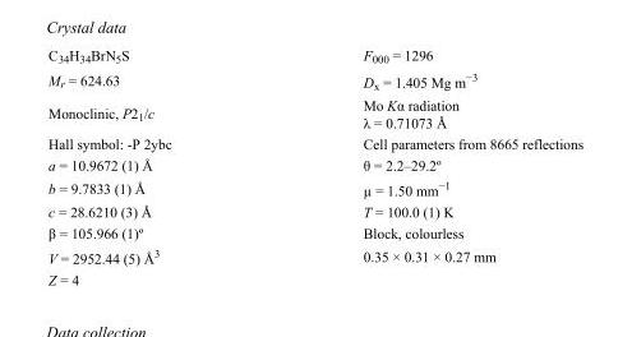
<table><tbody><tr><td>C<sub>34</sub>H<sub>34</sub>BrN<sub>5</sub>S</td><td>F<sub>000</sub> = 1296</td></tr><tr><td>M<sub>r</sub> = 624.63</td><td>D<sub>x</sub> = 1.405 Mg m<sup>−3</sup></td></tr><tr><td>Monoclinic, P2<sub>1</sub>/c</td><td>Mo Kα radiation λ = 0.71073 Å</td></tr><tr><td>Hall symbol: -P 2ybc</td><td>Cell parameters from 8665 reflections</td></tr><tr><td>a = 10.9672 (1) Å</td><td>θ = 2.2–29.2º</td></tr><tr><td>b = 9.7833 (1) Å</td><td>µ = 1.50 mm<sup>−1</sup></td></tr><tr><td>c = 28.6210 (3) Å</td><td>T = 100.0 (1) K</td></tr><tr><td>β = 105.966 (1)º</td><td>Block, colourless</td></tr><tr><td>V = 2952.44 (5) Å<sup>3</sup></td><td>0.35 × 0.31 × 0.27 mm</td></tr><tr><td>Z = 4</td><td></td></tr></tbody></table>